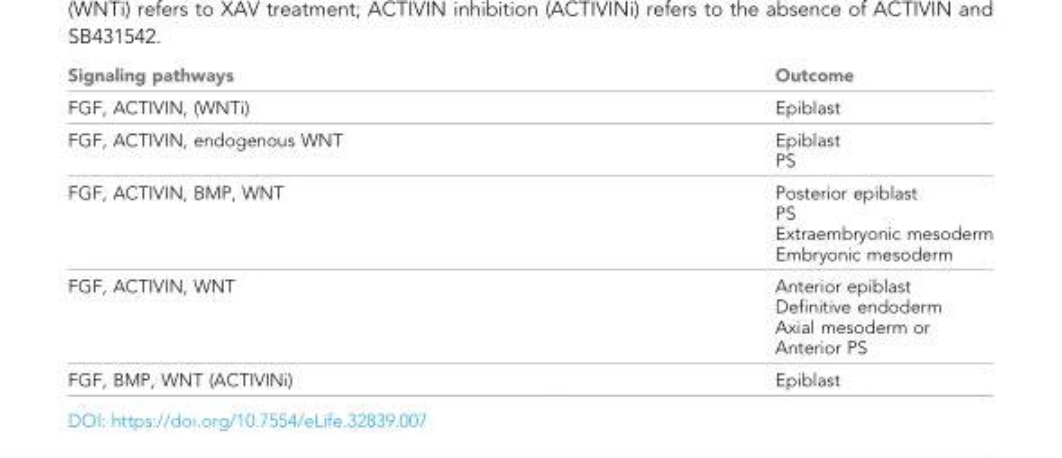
<table><thead><tr><td>Signaling pathways</td><td>Outcome</td></tr></thead><tbody><tr><td>FGF, ACTIVIN, (WNTi)</td><td>Epiblast</td></tr><tr><td>FGF, ACTIVIN, endogenous WNT</td><td>Epiblast PS</td></tr><tr><td>FGF, ACTIVIN, BMP, WNT</td><td>Posterior epiblast PS Extraembryonic mesoderm Embryonic mesoderm</td></tr><tr><td>FGF, ACTIVIN, WNT</td><td>Anterior epiblast Definitive endoderm Axial mesoderm or Anterior PS</td></tr><tr><td>FGF, BMP, WNT (ACTIVINi)</td><td>Epiblast</td></tr></tbody></table>